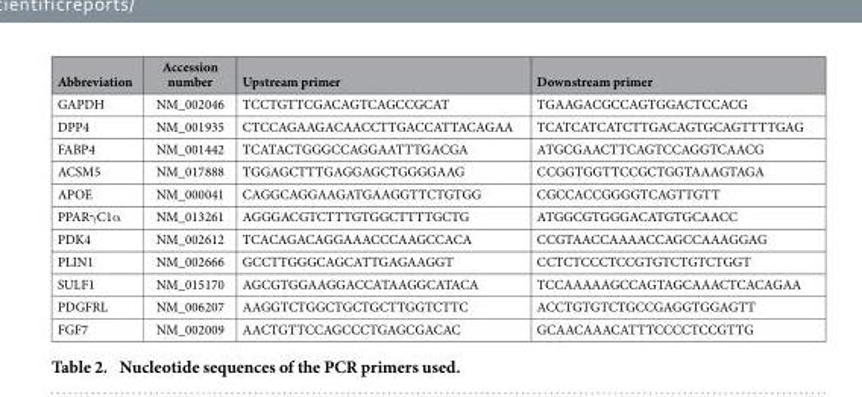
<table><thead><tr><td>Abbreviation</td><td>Accession number</td><td>Upstream primer</td><td>Downstream primer</td></tr></thead><tbody><tr><td>GAPDH</td><td>NM_002046</td><td>TCCTGTTCGACAGTCAGCCGCAT</td><td>TGAAGACGCCAGTGGACTCCACG</td></tr><tr><td>DPP4</td><td>NM_001935</td><td>CTCCAGAAGACAACCTTGACCATTACAGAA</td><td>TCATCATCATCTTGACAGTGCAGTTTTGAG</td></tr><tr><td>FABP4</td><td>NM_001442</td><td>TCATACTGGGCCAGGAATTTGACGA</td><td>ATGCGAACTTCAGTCCAGGTCAACG</td></tr><tr><td>ACSM5</td><td>NM_017888</td><td>TGGAGCTTTGAGGAGCTGGGGAAG</td><td>CCGGTGGTTCCGCTGGTAAAGTAGA</td></tr><tr><td>APOE</td><td>NM_000041</td><td>CAGGCAGGAAGATGAAGGTTCTGTGG</td><td>CGCCACCGGGGTCAGTTGTT</td></tr><tr><td>PPARγ C1α</td><td>NM_013261</td><td>AGGGACGTCTTTGTGGCTTTTGCTG</td><td>ATGGCGTGGGACATGTGCAACC</td></tr><tr><td>PDK4</td><td>NM_002612</td><td>TCACAGACAGGAAACCCAAGCCACA</td><td>CCGTAACCAAAACCAGCCAAAGGAG</td></tr><tr><td>PLIN1</td><td>NM_002666</td><td>GCCTTGGGCAGCATTGAGAAGGT</td><td>CCTCTCCCTCCGTGTCTGTCTGGT</td></tr><tr><td>SULF1</td><td>NM_015170</td><td>AGCGTGGAAGGACCATAAGGCATACA</td><td>TCCAAAAAGCCAGTAGCAAACTCACAGAA</td></tr><tr><td>PDGFRL</td><td>NM_006207</td><td>AAGGTCTGGCTGCTGCTTGGTCTTC</td><td>ACCTGTGTCTGCCGAGGTGGAGTT</td></tr><tr><td>FGF7</td><td>NM_002009</td><td>AACTGTTCCAGCCCTGAGCGACAC</td><td>GCAACAAACATTTCCCCTCCGTTG</td></tr></tbody></table>